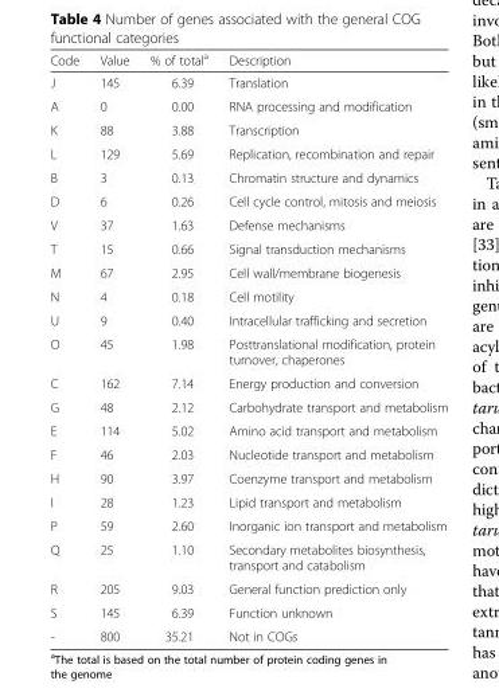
<table><thead><tr><td>Code</td><td>Value</td><td>% of total<sup>a</sup></td><td>Description</td></tr></thead><tbody><tr><td>J</td><td>145</td><td>6.39</td><td>Translation</td></tr><tr><td>A</td><td>0</td><td>0.00</td><td>RNA processing and modification</td></tr><tr><td>K</td><td>88</td><td>3.88</td><td>Transcription</td></tr><tr><td>L</td><td>129</td><td>5.69</td><td>Replication, recombination and repair</td></tr><tr><td>B</td><td>3</td><td>0.13</td><td>Chromatin structure and dynamics</td></tr><tr><td>D</td><td>6</td><td>0.26</td><td>Cell cycle control, mitosis and meiosis</td></tr><tr><td>V</td><td>37</td><td>1.63</td><td>Defense mechanisms</td></tr><tr><td>T</td><td>15</td><td>0.66</td><td>Signal transduction mechanisms</td></tr><tr><td>M</td><td>67</td><td>2.95</td><td>Cell wall/membrane biogenesis</td></tr><tr><td>N</td><td>4</td><td>0.18</td><td>Cell motility</td></tr><tr><td>U</td><td>9</td><td>0.40</td><td>Intracellular trafficking and secretion</td></tr><tr><td>O</td><td>45</td><td>1.98</td><td>Posttranslational modification, protein turnover, chaperones</td></tr><tr><td>C</td><td>162</td><td>7.14</td><td>Energy production and conversion</td></tr><tr><td>G</td><td>48</td><td>2.12</td><td>Carbohydrate transport and metabolism</td></tr><tr><td>E</td><td>114</td><td>5.02</td><td>Amino acid transport and metabolism</td></tr><tr><td>F</td><td>46</td><td>2.03</td><td>Nucleotide transport and metabolism</td></tr><tr><td>H</td><td>90</td><td>3.97</td><td>Coenzyme transport and metabolism</td></tr><tr><td>I</td><td>28</td><td>1.23</td><td>Lipid transport and metabolism</td></tr><tr><td>P</td><td>59</td><td>2.60</td><td>Inorganic ion transport and metabolism</td></tr><tr><td>Q</td><td>25</td><td>1.10</td><td>Secondary metabolites biosynthesis, transport and catabolism</td></tr><tr><td>R</td><td>205</td><td>9.03</td><td>General function prediction only</td></tr><tr><td>S</td><td>145</td><td>6.39</td><td>Function unknown</td></tr><tr><td>-</td><td>800</td><td>35.21</td><td>Not in COGs</td></tr></tbody></table>